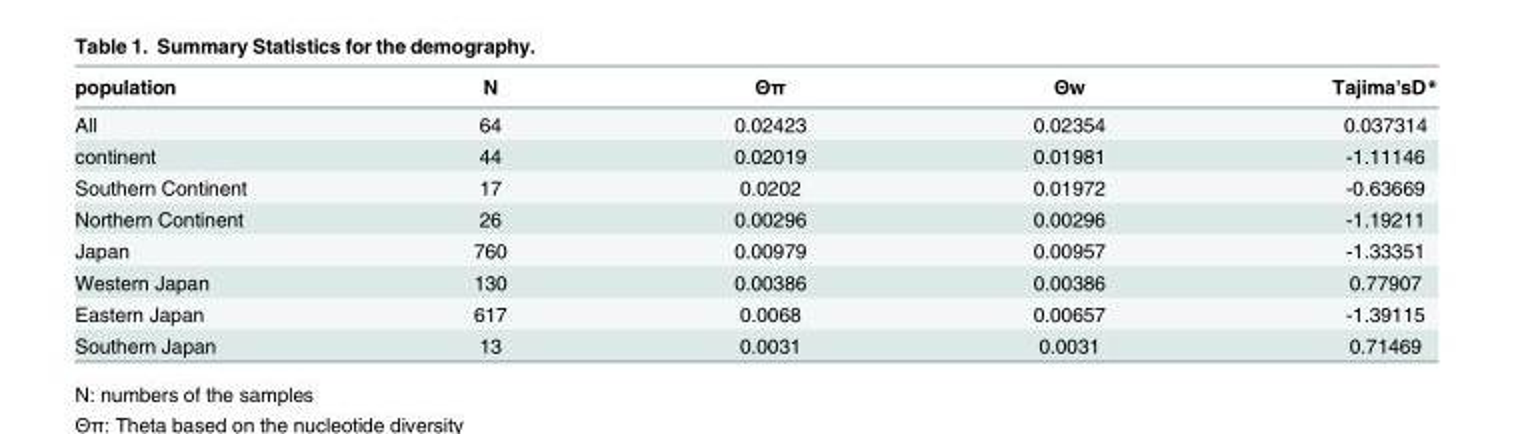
<table><thead><tr><td>population</td><td>N</td><td>Θπ</td><td>Θw</td><td>Tajima&#x27;sD*</td></tr></thead><tbody><tr><td>All</td><td>64</td><td>0.02423</td><td>0.02354</td><td>0.037314</td></tr><tr><td>continent</td><td>44</td><td>0.02019</td><td>0.01981</td><td>-1.11146</td></tr><tr><td>Southern Continent</td><td>17</td><td>0.0202</td><td>0.01972</td><td>-0.63669</td></tr><tr><td>Northern Continent</td><td>26</td><td>0.00296</td><td>0.00296</td><td>-1.19211</td></tr><tr><td>Japan</td><td>760</td><td>0.00979</td><td>0.00957</td><td>-1.33351</td></tr><tr><td>Western Japan</td><td>130</td><td>0.00386</td><td>0.00386</td><td>0.77907</td></tr><tr><td>Eastern Japan</td><td>617</td><td>0.0068</td><td>0.00657</td><td>-1.39115</td></tr><tr><td>Southern Japan</td><td>13</td><td>0.0031</td><td>0.0031</td><td>0.71469</td></tr></tbody></table>